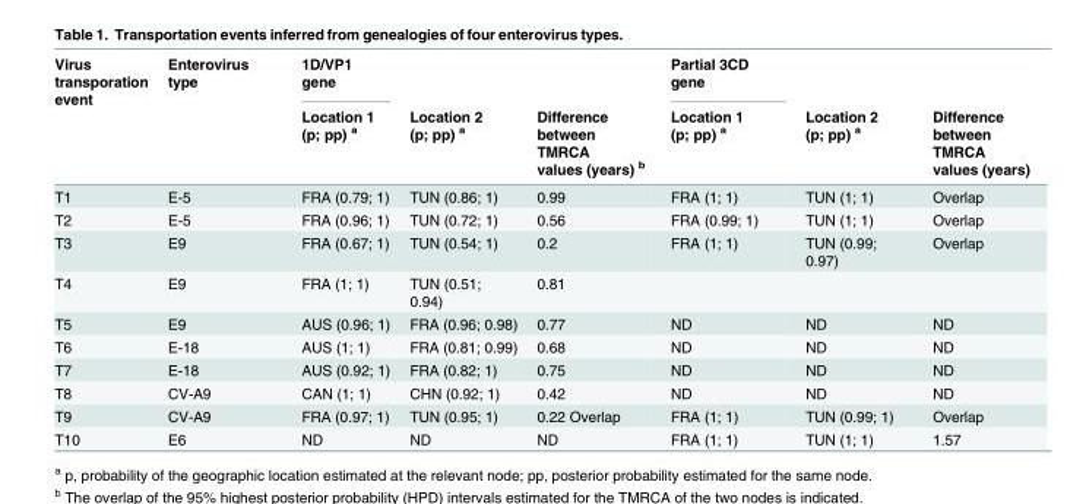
<table><thead><tr><td rowspan="2">Virus transporation event</td><td rowspan="2">Enterovirus type</td><td rowspan="2">1D/VP1 gene Location 1 (p; pp) <sup>a</sup></td><td rowspan="2">Location 2 (p; pp) <sup>a</sup></td><td rowspan="2">Difference between TMRCA values (years) <sup>b</sup></td><td rowspan="2">Partial 3CD gene Location 1 (p; pp) <sup>a</sup></td><td rowspan="2">Location 2 (p; pp) <sup>a</sup></td><td rowspan="2">Difference between TMRCA values (years)</td></tr><tr></tr></thead><tbody><tr><td>T1</td><td>E-5</td><td>FRA (0.79; 1)</td><td>TUN (0.86; 1)</td><td>0.99</td><td>FRA (1; 1)</td><td>TUN (1; 1)</td><td>Overlap</td></tr><tr><td>T2</td><td>E-5</td><td>FRA (0.96; 1)</td><td>TUN (0.72; 1)</td><td>0.56</td><td>FRA (0.99; 1)</td><td>TUN (1; 1)</td><td>Overlap</td></tr><tr><td>T3</td><td>E9</td><td>FRA (0.67; 1)</td><td>TUN (0.54; 1)</td><td>0.2</td><td>FRA (1; 1)</td><td>TUN (0.99; 0.97)</td><td>Overlap</td></tr><tr><td>T4</td><td>E9</td><td>FRA (1; 1)</td><td>TUN (0.51; 0.94)</td><td>0.81</td><td></td><td></td><td></td></tr><tr><td>T5</td><td>E9</td><td>AUS (0.96; 1)</td><td>FRA (0.96; 0.98)</td><td>0.77</td><td>ND</td><td>ND</td><td>ND</td></tr><tr><td>T6</td><td>E-18</td><td>AUS (1; 1)</td><td>FRA (0.81; 0.99)</td><td>0.68</td><td>ND</td><td>ND</td><td>ND</td></tr><tr><td>T7</td><td>E-18</td><td>AUS (0.92; 1)</td><td>FRA (0.82; 1)</td><td>0.75</td><td>ND</td><td>ND</td><td>ND</td></tr><tr><td>T8</td><td>CV-A9</td><td>CAN (1; 1)</td><td>CHN (0.92; 1)</td><td>0.42</td><td>ND</td><td>ND</td><td>ND</td></tr><tr><td>T9</td><td>CV-A9</td><td>FRA (0.97; 1)</td><td>TUN (0.95; 1)</td><td>0.22 Overlap</td><td>FRA (1; 1)</td><td>TUN (0.99; 1)</td><td>Overlap</td></tr><tr><td>T10</td><td>E6</td><td>ND</td><td>ND</td><td>ND</td><td>FRA (1; 1)</td><td>TUN (1; 1)</td><td>1.57</td></tr></tbody></table>